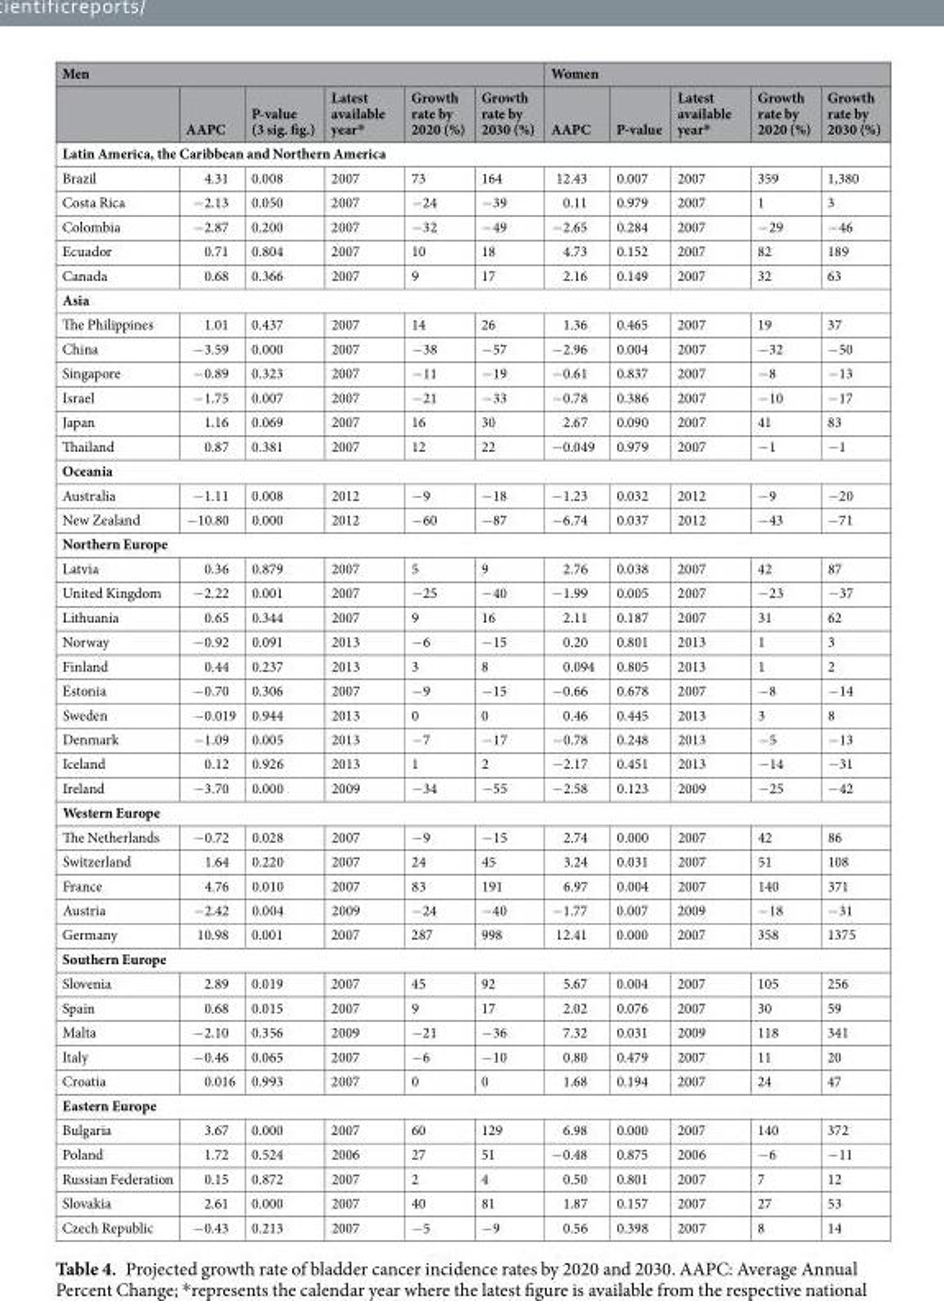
<table><thead><tr><td colspan="6">Men</td><td colspan="5">Women</td></tr><tr><td></td><td>AAPC</td><td>P-value (3 sig. fig.)</td><td>Latest available year*</td><td>Growth rate by 2020 (%)</td><td>Growth rate by 2030 (%)</td><td>AAPC</td><td>P-value</td><td>Latest available year*</td><td>Growth rate by 2020 (%)</td><td>Growth rate by 2030 (%)</td></tr></thead><tbody><tr><td colspan="11">Latin America, the Caribbean and Northern America</td></tr><tr><td>Brazil</td><td>4.31</td><td>0.008</td><td>2007</td><td>73</td><td>164</td><td>12.43</td><td>0.007</td><td>2007</td><td>359</td><td>1,380</td></tr><tr><td>Costa Rica</td><td>−2.13</td><td>0.050</td><td>2007</td><td>−24</td><td>−39</td><td>0.11</td><td>0.979</td><td>2007</td><td>1</td><td>3</td></tr><tr><td>Colombia</td><td>−2.87</td><td>0.200</td><td>2007</td><td>−32</td><td>−49</td><td>−2.65</td><td>0.284</td><td>2007</td><td>−29</td><td>−46</td></tr><tr><td>Ecuador</td><td>0.71</td><td>0.804</td><td>2007</td><td>10</td><td>18</td><td>4.73</td><td>0.152</td><td>2007</td><td>82</td><td>189</td></tr><tr><td>Canada</td><td>0.68</td><td>0.366</td><td>2007</td><td>9</td><td>17</td><td>2.16</td><td>0.149</td><td>2007</td><td>32</td><td>63</td></tr><tr><td colspan="11">Asia</td></tr><tr><td>The Philippines</td><td>1.01</td><td>0.437</td><td>2007</td><td>14</td><td>26</td><td>1.36</td><td>0.465</td><td>2007</td><td>19</td><td>37</td></tr><tr><td>China</td><td>−3.59</td><td>0.000</td><td>2007</td><td>−38</td><td>−57</td><td>−2.96</td><td>0.004</td><td>2007</td><td>−32</td><td>−50</td></tr><tr><td>Singapore</td><td>−0.89</td><td>0.323</td><td>2007</td><td>−11</td><td>−19</td><td>−0.61</td><td>0.837</td><td>2007</td><td>−8</td><td>−13</td></tr><tr><td>Israel</td><td>−1.75</td><td>0.007</td><td>2007</td><td>−21</td><td>−33</td><td>−0.78</td><td>0.386</td><td>2007</td><td>−10</td><td>−17</td></tr><tr><td>Japan</td><td>1.16</td><td>0.069</td><td>2007</td><td>16</td><td>30</td><td>2.67</td><td>0.090</td><td>2007</td><td>41</td><td>83</td></tr><tr><td>Thailand</td><td>0.87</td><td>0.381</td><td>2007</td><td>12</td><td>22</td><td>−0.049</td><td>0.979</td><td>2007</td><td>−1</td><td>−1</td></tr><tr><td colspan="11">Oceania</td></tr><tr><td>Australia</td><td>−1.11</td><td>0.008</td><td>2012</td><td>−9</td><td>−18</td><td>−1.23</td><td>0.032</td><td>2012</td><td>−9</td><td>−20</td></tr><tr><td>New Zealand</td><td>−10.80</td><td>0.000</td><td>2012</td><td>−60</td><td>−87</td><td>−6.74</td><td>0.037</td><td>2012</td><td>−43</td><td>−71</td></tr><tr><td colspan="11">Northern Europe</td></tr><tr><td>Latvia</td><td>0.36</td><td>0.879</td><td>2007</td><td>5</td><td>9</td><td>2.76</td><td>0.038</td><td>2007</td><td>42</td><td>87</td></tr><tr><td>United Kingdom</td><td>−2.22</td><td>0.001</td><td>2007</td><td>−25</td><td>−40</td><td>−1.99</td><td>0.005</td><td>2007</td><td>−23</td><td>−37</td></tr><tr><td>Lithuania</td><td>0.65</td><td>0.344</td><td>2007</td><td>9</td><td>16</td><td>2.11</td><td>0.187</td><td>2007</td><td>31</td><td>62</td></tr><tr><td>Norway</td><td>−0.92</td><td>0.091</td><td>2013</td><td>−6</td><td>−15</td><td>0.20</td><td>0.801</td><td>2013</td><td>1</td><td>3</td></tr><tr><td>Finland</td><td>0.44</td><td>0.237</td><td>2013</td><td>3</td><td>8</td><td>0.094</td><td>0.805</td><td>2013</td><td>1</td><td>2</td></tr><tr><td>Estonia</td><td>−0.70</td><td>0.306</td><td>2007</td><td>−9</td><td>−15</td><td>−0.66</td><td>0.678</td><td>2007</td><td>−8</td><td>−14</td></tr><tr><td>Sweden</td><td>−0.019</td><td>0.944</td><td>2013</td><td>0</td><td>0</td><td>0.46</td><td>0.445</td><td>2013</td><td>3</td><td>8</td></tr><tr><td>Denmark</td><td>−1.09</td><td>0.005</td><td>2013</td><td>−7</td><td>−17</td><td>−0.78</td><td>0.248</td><td>2013</td><td>−5</td><td>−13</td></tr><tr><td>Iceland</td><td>0.12</td><td>0.926</td><td>2013</td><td>1</td><td>2</td><td>−2.17</td><td>0.451</td><td>2013</td><td>−14</td><td>−31</td></tr><tr><td>Ireland</td><td>−3.70</td><td>0.000</td><td>2009</td><td>−34</td><td>−55</td><td>−2.58</td><td>0.123</td><td>2009</td><td>−25</td><td>−42</td></tr><tr><td colspan="11">Western Europe</td></tr><tr><td>The Netherlands</td><td>−0.72</td><td>0.028</td><td>2007</td><td>−9</td><td>−15</td><td>2.74</td><td>0.000</td><td>2007</td><td>42</td><td>86</td></tr><tr><td>Switzerland</td><td>1.64</td><td>0.220</td><td>2007</td><td>24</td><td>45</td><td>3.24</td><td>0.031</td><td>2007</td><td>51</td><td>108</td></tr><tr><td>France</td><td>4.76</td><td>0.010</td><td>2007</td><td>83</td><td>191</td><td>6.97</td><td>0.004</td><td>2007</td><td>140</td><td>371</td></tr><tr><td>Austria</td><td>−2.42</td><td>0.004</td><td>2009</td><td>−24</td><td>−40</td><td>−1.77</td><td>0.007</td><td>2009</td><td>−18</td><td>−31</td></tr><tr><td>Germany</td><td>10.98</td><td>0.001</td><td>2007</td><td>287</td><td>998</td><td>12.41</td><td>0.000</td><td>2007</td><td>358</td><td>1375</td></tr><tr><td colspan="11">Southern Europe</td></tr><tr><td>Slovenia</td><td>2.89</td><td>0.019</td><td>2007</td><td>45</td><td>92</td><td>5.67</td><td>0.004</td><td>2007</td><td>105</td><td>256</td></tr><tr><td>Spain</td><td>0.68</td><td>0.015</td><td>2007</td><td>9</td><td>17</td><td>2.02</td><td>0.076</td><td>2007</td><td>30</td><td>59</td></tr><tr><td>Malta</td><td>−2.10</td><td>0.356</td><td>2009</td><td>−21</td><td>−36</td><td>7.32</td><td>0.031</td><td>2009</td><td>118</td><td>341</td></tr><tr><td>Italy</td><td>−0.46</td><td>0.065</td><td>2007</td><td>−6</td><td>−10</td><td>0.80</td><td>0.479</td><td>2007</td><td>11</td><td>20</td></tr><tr><td>Croatia</td><td>0.016</td><td>0.993</td><td>2007</td><td>0</td><td>0</td><td>1.68</td><td>0.194</td><td>2007</td><td>24</td><td>47</td></tr><tr><td colspan="11">Eastern Europe</td></tr><tr><td>Bulgaria</td><td>3.67</td><td>0.000</td><td>2007</td><td>60</td><td>129</td><td>6.98</td><td>0.000</td><td>2007</td><td>140</td><td>372</td></tr><tr><td>Poland</td><td>1.72</td><td>0.524</td><td>2006</td><td>27</td><td>51</td><td>−0.48</td><td>0.875</td><td>2006</td><td>−6</td><td>−11</td></tr><tr><td>Russian Federation</td><td>0.15</td><td>0.872</td><td>2007</td><td>2</td><td>4</td><td>0.50</td><td>0.801</td><td>2007</td><td>7</td><td>12</td></tr><tr><td>Slovakia</td><td>2.61</td><td>0.000</td><td>2007</td><td>40</td><td>81</td><td>1.87</td><td>0.157</td><td>2007</td><td>27</td><td>53</td></tr><tr><td>Czech Republic</td><td>−0.43</td><td>0.213</td><td>2007</td><td>−5</td><td>−9</td><td>0.56</td><td>0.398</td><td>2007</td><td>8</td><td>14</td></tr></tbody></table>